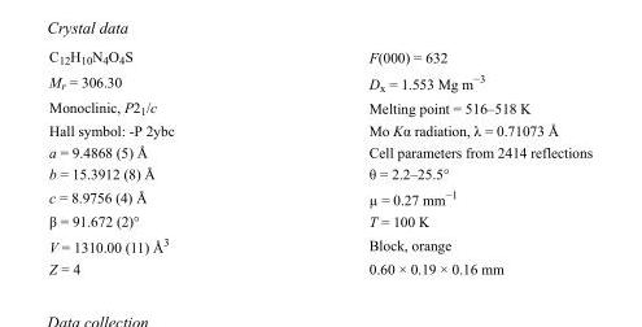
<table><tbody><tr><td>C<sub>12</sub>H<sub>10</sub>N<sub>4</sub>O<sub>4</sub>S</td><td>F(000) = 632</td></tr><tr><td>M<sub>r</sub> = 306.30</td><td>D<sub>x</sub> = 1.553 Mg m<sup>−3</sup></td></tr><tr><td>Monoclinic, P2<sub>1</sub>/c</td><td>Melting point = 516–518 K</td></tr><tr><td>Hall symbol: -P 2ybc</td><td>Mo Kα radiation, λ = 0.71073 Å</td></tr><tr><td>a = 9.4868 (5) Å</td><td>Cell parameters from 2414 reflections</td></tr><tr><td>b = 15.3912 (8) Å</td><td>θ = 2.2–25.5°</td></tr><tr><td>c = 8.9756 (4) Å</td><td>µ = 0.27 mm<sup>−1</sup></td></tr><tr><td>β = 91.672 (2)°</td><td>T = 100 K</td></tr><tr><td>V = 1310.00 (11) Å<sup>3</sup></td><td>Block, orange</td></tr><tr><td>Z = 4</td><td>0.60 × 0.19 × 0.16 mm</td></tr></tbody></table>